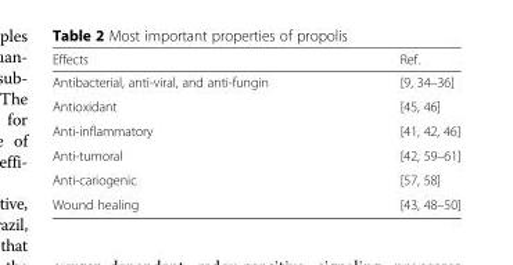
<table><thead><tr><td>Effects</td><td>Ref.</td></tr></thead><tbody><tr><td>Antibacterial, anti-viral, and anti-fungin</td><td>[9, 34–36]</td></tr><tr><td>Antioxidant</td><td>[45, 46]</td></tr><tr><td>Anti-inflammatory</td><td>[41, 42, 46]</td></tr><tr><td>Anti-tumoral</td><td>[42, 59–61]</td></tr><tr><td>Anti-cariogenic</td><td>[57, 58]</td></tr><tr><td>Wound healing</td><td>[43, 48–50]</td></tr></tbody></table>